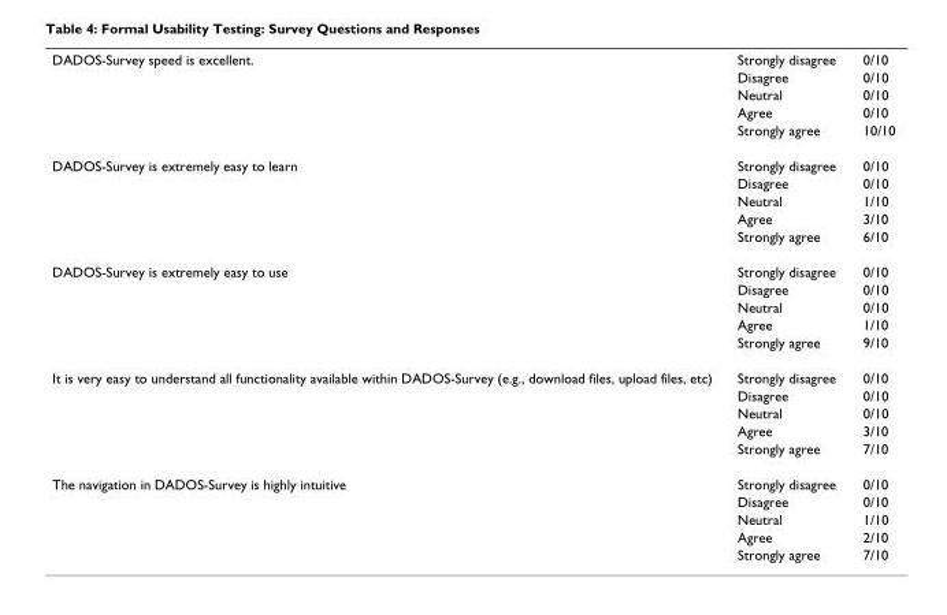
<table><tbody><tr><td rowspan="5">DADOS-Survey speed is excellent.</td><td>Strongly disagree</td><td>0/10</td></tr><tr><td>Disagree</td><td>0/10</td></tr><tr><td>Neutral</td><td>0/10</td></tr><tr><td>Agree</td><td>0/10</td></tr><tr><td>Strongly agree</td><td>10/10</td></tr><tr><td rowspan="5">DADOS-Survey is extremely easy to learn</td><td>Strongly disagree</td><td>0/10</td></tr><tr><td>Disagree</td><td>0/10</td></tr><tr><td>Neutral</td><td>1/10</td></tr><tr><td>Agree</td><td>3/10</td></tr><tr><td>Strongly agree</td><td>6/10</td></tr><tr><td rowspan="5">DADOS-Survey is extremely easy to use</td><td>Strongly disagree</td><td>0/10</td></tr><tr><td>Disagree</td><td>0/10</td></tr><tr><td>Neutral</td><td>0/10</td></tr><tr><td>Agree</td><td>1/10</td></tr><tr><td>Strongly agree</td><td>9/10</td></tr><tr><td rowspan="5">It is very easy to understand all functionality available within DADOS-Survey (e.g., download files, upload files, etc)</td><td>Strongly disagree</td><td>0/10</td></tr><tr><td>Disagree</td><td>0/10</td></tr><tr><td>Neutral</td><td>0/10</td></tr><tr><td>Agree</td><td>3/10</td></tr><tr><td>Strongly agree</td><td>7/10</td></tr><tr><td rowspan="5">The navigation in DADOS-Survey is highly intuitive</td><td>Strongly disagree</td><td>0/10</td></tr><tr><td>Disagree</td><td>0/10</td></tr><tr><td>Neutral</td><td>1/10</td></tr><tr><td>Agree</td><td>2/10</td></tr><tr><td>Strongly agree</td><td>7/10</td></tr></tbody></table>